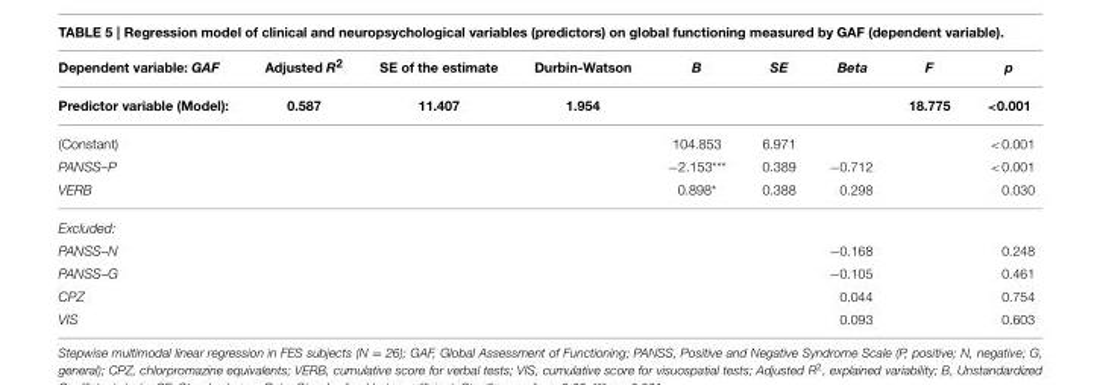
<table><thead><tr><td>Dependent variable: GAF</td><td>Adjusted R<sup>2</sup></td><td>SE of the estimate</td><td>Durbin-Watson</td><td>B</td><td>SE</td><td>Beta</td><td>F</td><td>p</td></tr></thead><tbody><tr><td>Predictor variable (Model):</td><td>0.587</td><td>11.407</td><td>1.954</td><td></td><td></td><td></td><td>18.775</td><td>&lt;0.001</td></tr><tr><td>(Constant)</td><td></td><td></td><td></td><td>104.853</td><td>6.971</td><td></td><td></td><td>&lt;0.001</td></tr><tr><td>PANSS–P</td><td></td><td></td><td></td><td>−2.153***</td><td>0.389</td><td>−0.712</td><td></td><td>&lt;0.001</td></tr><tr><td>VERB</td><td></td><td></td><td></td><td>0.898*</td><td>0.388</td><td>0.298</td><td></td><td>0.030</td></tr><tr><td colspan="9">Excluded:</td></tr><tr><td>PANSS–N</td><td></td><td></td><td></td><td></td><td></td><td>−0.168</td><td></td><td>0.248</td></tr><tr><td>PANSS–G</td><td></td><td></td><td></td><td></td><td></td><td>−0.105</td><td></td><td>0.461</td></tr><tr><td>CPZ</td><td></td><td></td><td></td><td></td><td></td><td>0.044</td><td></td><td>0.754</td></tr><tr><td>VIS</td><td></td><td></td><td></td><td></td><td></td><td>0.093</td><td></td><td>0.603</td></tr></tbody></table>